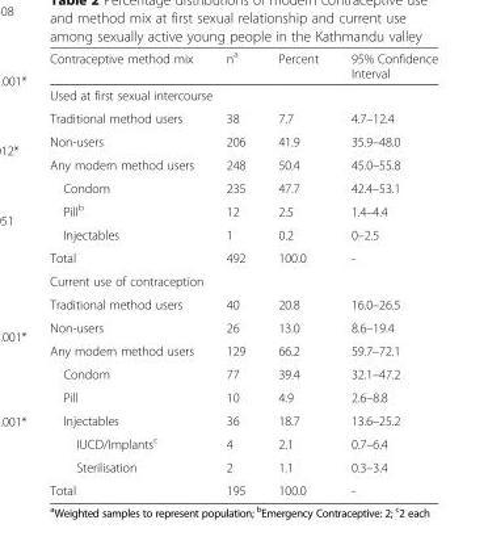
<table><thead><tr><td>Contraceptive method mix</td><td>n<sup>a</sup></td><td>Percent</td><td>95% Confidence Interval</td></tr></thead><tbody><tr><td colspan="4">Used at first sexual intercourse</td></tr><tr><td>Traditional method users</td><td>38</td><td>7.7</td><td>4.7–12.4</td></tr><tr><td>Non-users</td><td>206</td><td>41.9</td><td>35.9–48.0</td></tr><tr><td>Any modern method users</td><td>248</td><td>50.4</td><td>45.0–55.8</td></tr><tr><td>Condom</td><td>235</td><td>47.7</td><td>42.4–53.1</td></tr><tr><td>Pill<sup>b</sup></td><td>12</td><td>2.5</td><td>1.4–4.4</td></tr><tr><td>Injectables</td><td>1</td><td>0.2</td><td>0–2.5</td></tr><tr><td>Total</td><td>492</td><td>100.0</td><td>-</td></tr><tr><td colspan="4">Current use of contraception</td></tr><tr><td>Traditional method users</td><td>40</td><td>20.8</td><td>16.0–26.5</td></tr><tr><td>Non-users</td><td>26</td><td>13.0</td><td>8.6–19.4</td></tr><tr><td>Any modern method users</td><td>129</td><td>66.2</td><td>59.7–72.1</td></tr><tr><td>Condom</td><td>77</td><td>39.4</td><td>32.1–47.2</td></tr><tr><td>Pill</td><td>10</td><td>4.9</td><td>2.6–8.8</td></tr><tr><td>Injectables</td><td>36</td><td>18.7</td><td>13.6–25.2</td></tr><tr><td>IUCD/Implants<sup>c</sup></td><td>4</td><td>2.1</td><td>0.7–6.4</td></tr><tr><td>Sterilisation</td><td>2</td><td>1.1</td><td>0.3–3.4</td></tr><tr><td>Total</td><td>195</td><td>100.0</td><td>-</td></tr></tbody></table>